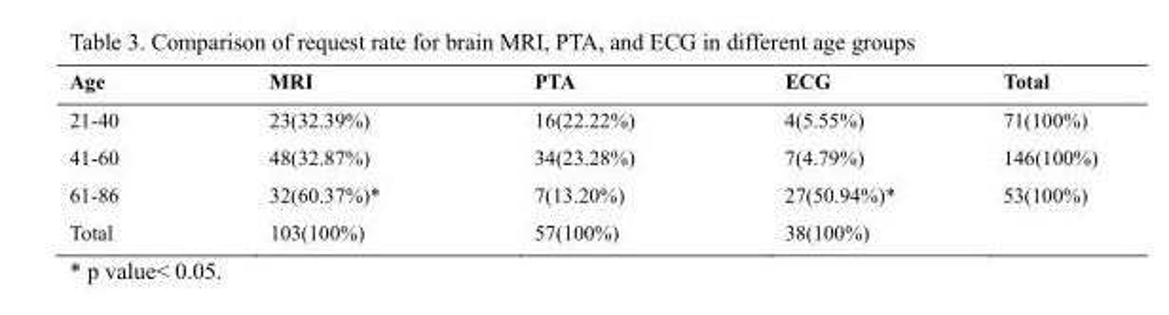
<table><thead><tr><td>Age</td><td>MRI</td><td>PTA</td><td>ECG</td><td>Total</td></tr></thead><tbody><tr><td>21-40</td><td>23(32.39%)</td><td>16(22.22%)</td><td>4(5.55%)</td><td>71(100%)</td></tr><tr><td>41-60</td><td>48(32.87%)</td><td>34(23.28%)</td><td>7(4.79%)</td><td>146(100%)</td></tr><tr><td>61-86</td><td>32(60.37%)*</td><td>7(13.20%)</td><td>27(50.94%)*</td><td>53(100%)</td></tr><tr><td>Total</td><td>103(100%)</td><td>57(100%)</td><td>38(100%)</td><td></td></tr></tbody></table>